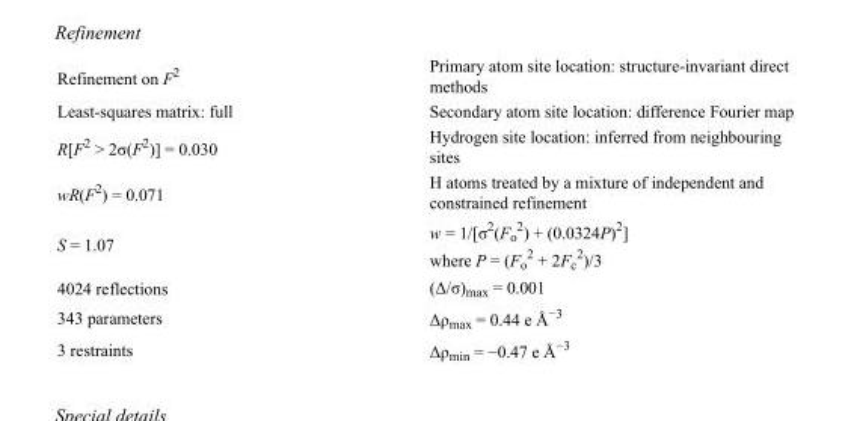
<table><tbody><tr><td>Refinement on F<sup>2</sup></td><td>Primary atom site location: structure-invariant direct methods</td></tr><tr><td>Least-squares matrix: full</td><td>Secondary atom site location: difference Fourier map</td></tr><tr><td>R[F<sup>2</sup> &gt; 2σ(F<sup>2</sup>)] = 0.030</td><td>Hydrogen site location: inferred from neighbouring sites</td></tr><tr><td>wR(F<sup>2</sup>) = 0.071</td><td>H atoms treated by a mixture of independent and constrained refinement</td></tr><tr><td>S = 1.07</td><td>w = 1/[σ<sup>2</sup>(F<sub>o</sub> <sup>2</sup>) + (0.0324P)<sup>2</sup>] where P = (F<sub>o</sub> <sup>2</sup> + 2F<sub>c</sub> <sup>2</sup>)/3</td></tr><tr><td>4024 reflections</td><td>(Δ/σ)<sub>max</sub> = 0.001</td></tr><tr><td>343 parameters</td><td>Δρ<sub>max</sub> = 0.44 e Å<sup>−3</sup></td></tr><tr><td>3 restraints</td><td>Δρ<sub>min</sub> = −0.47 e Å<sup>−3</sup></td></tr></tbody></table>